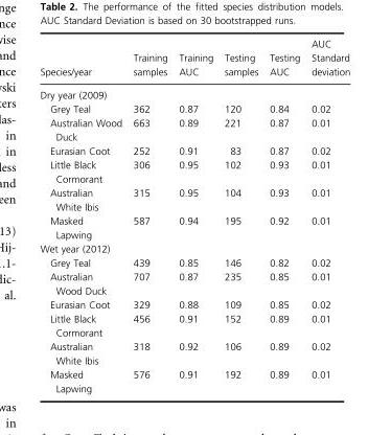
<table><thead><tr><td>Species/year</td><td>Training samples</td><td>Training AUC</td><td>Testing samples</td><td>Testing AUC</td><td>AUC Standard deviation</td></tr></thead><tbody><tr><td colspan="6">Dry year (2009)</td></tr><tr><td>Grey Teal</td><td>362</td><td>0.87</td><td>120</td><td>0.84</td><td>0.02</td></tr><tr><td>Australian Wood Duck</td><td>663</td><td>0.89</td><td>221</td><td>0.87</td><td>0.01</td></tr><tr><td>Eurasian Coot</td><td>252</td><td>0.91</td><td>83</td><td>0.87</td><td>0.02</td></tr><tr><td>Little Black Cormorant</td><td>306</td><td>0.95</td><td>102</td><td>0.93</td><td>0.01</td></tr><tr><td>Australian White Ibis</td><td>315</td><td>0.95</td><td>104</td><td>0.93</td><td>0.01</td></tr><tr><td>Masked Lapwing</td><td>587</td><td>0.94</td><td>195</td><td>0.92</td><td>0.01</td></tr><tr><td colspan="6">Wet year (2012)</td></tr><tr><td>Grey Teal</td><td>439</td><td>0.85</td><td>146</td><td>0.82</td><td>0.02</td></tr><tr><td>Australian Wood Duck</td><td>707</td><td>0.87</td><td>235</td><td>0.85</td><td>0.01</td></tr><tr><td>Eurasian Coot</td><td>329</td><td>0.88</td><td>109</td><td>0.85</td><td>0.02</td></tr><tr><td>Little Black Cormorant</td><td>456</td><td>0.91</td><td>152</td><td>0.89</td><td>0.01</td></tr><tr><td>Australian White Ibis</td><td>318</td><td>0.92</td><td>106</td><td>0.89</td><td>0.02</td></tr><tr><td>Masked Lapwing</td><td>576</td><td>0.91</td><td>192</td><td>0.89</td><td>0.01</td></tr></tbody></table>